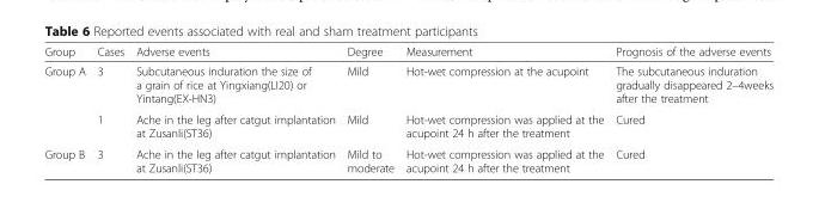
<table><thead><tr><td>Group</td><td>Cases</td><td>Adverse events</td><td>Degree</td><td>Measurement</td><td>Prognosis of the adverse events</td></tr></thead><tbody><tr><td rowspan="2">Group A</td><td>3</td><td>Subcutaneous induration the size of a grain of rice at Yingxiang(LI20) or Yintang(EX-HN3)</td><td>Mild</td><td>Hot-wet compression at the acupoint</td><td>The subcutaneous induration gradually disappeared 2–4weeks after the treatment</td></tr><tr><td>1</td><td>Ache in the leg after catgut implantation at Zusanli(ST36)</td><td>Mild</td><td>Hot-wet compression was applied at the acupoint 24 h after the treatment</td><td>Cured</td></tr><tr><td>Group B</td><td>3</td><td>Ache in the leg after catgut implantation at Zusanli(ST36)</td><td>Mild to moderate</td><td>Hot-wet compression was applied at the acupoint 24 h after the treatment</td><td>Cured</td></tr></tbody></table>